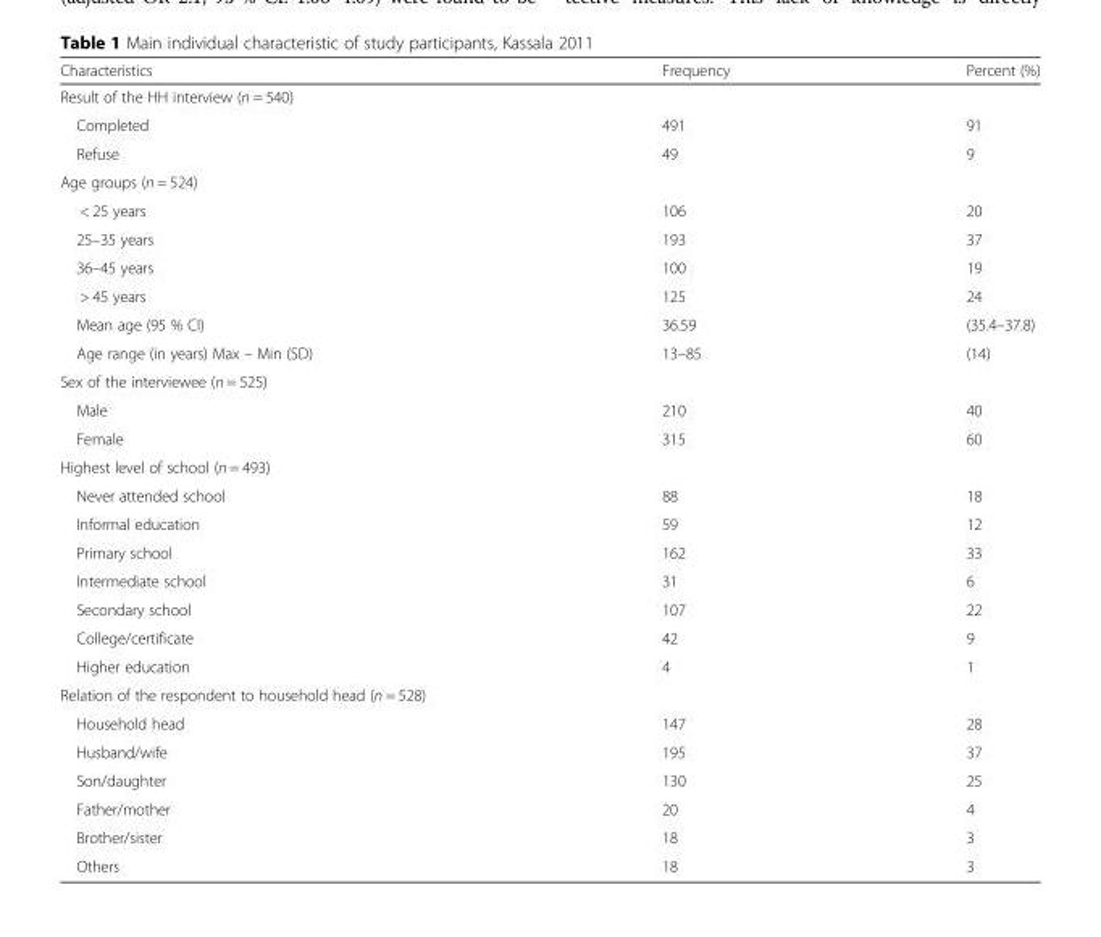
<table><thead><tr><td>Characteristics</td><td>Frequency</td><td>Percent (%)</td></tr></thead><tbody><tr><td colspan="3">Result of the HH interview (n = 540)</td></tr><tr><td>Completed</td><td>491</td><td>91</td></tr><tr><td>Refuse</td><td>49</td><td>9</td></tr><tr><td colspan="3">Age groups (n = 524)</td></tr><tr><td>&lt; 25 years</td><td>106</td><td>20</td></tr><tr><td>25–35 years</td><td>193</td><td>37</td></tr><tr><td>36–45 years</td><td>100</td><td>19</td></tr><tr><td>&gt; 45 years</td><td>125</td><td>24</td></tr><tr><td>Mean age (95 % CI)</td><td>36.59</td><td>(35.4–37.8)</td></tr><tr><td>Age range (in years) Max – Min (SD)</td><td>13–85</td><td>(14)</td></tr><tr><td colspan="3">Sex of the interviewee (n = 525)</td></tr><tr><td>Male</td><td>210</td><td>40</td></tr><tr><td>Female</td><td>315</td><td>60</td></tr><tr><td colspan="3">Highest level of school (n = 493)</td></tr><tr><td>Never attended school</td><td>88</td><td>18</td></tr><tr><td>Informal education</td><td>59</td><td>12</td></tr><tr><td>Primary school</td><td>162</td><td>33</td></tr><tr><td>Intermediate school</td><td>31</td><td>6</td></tr><tr><td>Secondary school</td><td>107</td><td>22</td></tr><tr><td>College/certificate</td><td>42</td><td>9</td></tr><tr><td>Higher education</td><td>4</td><td>1</td></tr><tr><td colspan="3">Relation of the respondent to household head (n = 528)</td></tr><tr><td>Household head</td><td>147</td><td>28</td></tr><tr><td>Husband/wife</td><td>195</td><td>37</td></tr><tr><td>Son/daughter</td><td>130</td><td>25</td></tr><tr><td>Father/mother</td><td>20</td><td>4</td></tr><tr><td>Brother/sister</td><td>18</td><td>3</td></tr><tr><td>Others</td><td>18</td><td>3</td></tr></tbody></table>